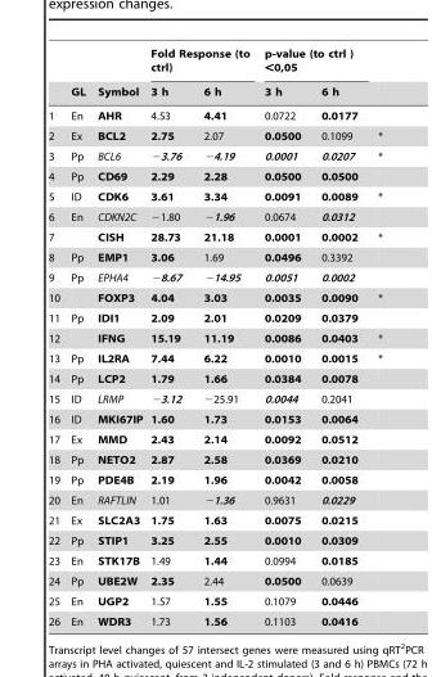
<table><thead><tr><td rowspan="2"></td><td rowspan="2">GL</td><td rowspan="2">Symbol</td><td colspan="2">Fold Response (to ctrl)</td><td colspan="2">p-value (to ctrl ) &lt;0,05</td><td rowspan="2"></td></tr><tr><td>3 h</td><td>6 h</td><td>3 h</td><td>6 h</td></tr></thead><tbody><tr><td>1</td><td>En</td><td>AHR</td><td>4.53</td><td>4.41</td><td>0.0722</td><td>0.0177</td><td></td></tr><tr><td>2</td><td>Ex</td><td>BCL2</td><td>2.75</td><td>2.07</td><td>0.0500</td><td>0.1099</td><td>*</td></tr><tr><td>3</td><td>Pp</td><td>BCL6</td><td>−3.76</td><td>−4.19</td><td>0.0001</td><td>0.0207</td><td>*</td></tr><tr><td>4</td><td>Pp</td><td>CD69</td><td>2.29</td><td>2.28</td><td>0.0500</td><td>0.0500</td><td></td></tr><tr><td>5</td><td>ID</td><td>CDK6</td><td>3.61</td><td>3.34</td><td>0.0091</td><td>0.0089</td><td>*</td></tr><tr><td>6</td><td>En</td><td>CDKN2C</td><td>−1.80</td><td>−1.96</td><td>0.0674</td><td>0.0312</td><td></td></tr><tr><td>7</td><td></td><td>CISH</td><td>28.73</td><td>21.18</td><td>0.0001</td><td>0.0002</td><td>*</td></tr><tr><td>8</td><td>Pp</td><td>EMP1</td><td>3.06</td><td>1.69</td><td>0.0496</td><td>0.3392</td><td></td></tr><tr><td>9</td><td>Pp</td><td>EPHA4</td><td>−8.67</td><td>−14.95</td><td>0.0051</td><td>0.0002</td><td></td></tr><tr><td>10</td><td></td><td>FOXP3</td><td>4.04</td><td>3.03</td><td>0.0035</td><td>0.0090</td><td>*</td></tr><tr><td>11</td><td>Pp</td><td>IDI1</td><td>2.09</td><td>2.01</td><td>0.0209</td><td>0.0379</td><td></td></tr><tr><td>12</td><td></td><td>IFNG</td><td>15.19</td><td>11.19</td><td>0.0086</td><td>0.0403</td><td>*</td></tr><tr><td>13</td><td>Pp</td><td>IL2RA</td><td>7.44</td><td>6.22</td><td>0.0010</td><td>0.0015</td><td>*</td></tr><tr><td>14</td><td>Pp</td><td>LCP2</td><td>1.79</td><td>1.66</td><td>0.0384</td><td>0.0078</td><td></td></tr><tr><td>15</td><td>ID</td><td>LRMP</td><td>−3.12</td><td>−25.91</td><td>0.0044</td><td>0.2041</td><td></td></tr><tr><td>16</td><td>ID</td><td>MKI67IP</td><td>1.60</td><td>1.73</td><td>0.0153</td><td>0.0064</td><td></td></tr><tr><td>17</td><td>Ex</td><td>MMD</td><td>2.43</td><td>2.14</td><td>0.0092</td><td>0.0512</td><td></td></tr><tr><td>18</td><td>Pp</td><td>NETO2</td><td>2.87</td><td>2.58</td><td>0.0369</td><td>0.0210</td><td></td></tr><tr><td>19</td><td>Pp</td><td>PDE4B</td><td>2.19</td><td>1.96</td><td>0.0042</td><td>0.0058</td><td></td></tr><tr><td>20</td><td>En</td><td>RAFTLIN</td><td>1.01</td><td>−1.36</td><td>0.9631</td><td>0.0229</td><td></td></tr><tr><td>21</td><td>Ex</td><td>SLC2A3</td><td>1.75</td><td>1.63</td><td>0.0075</td><td>0.0215</td><td></td></tr><tr><td>22</td><td>Pp</td><td>STIP1</td><td>3.25</td><td>2.55</td><td>0.0010</td><td>0.0309</td><td></td></tr><tr><td>23</td><td>En</td><td>STK17B</td><td>1.49</td><td>1.44</td><td>0.0994</td><td>0.0185</td><td></td></tr><tr><td>24</td><td>Pp</td><td>UBE2W</td><td>2.35</td><td>2.44</td><td>0.0500</td><td>0.0639</td><td></td></tr><tr><td>25</td><td>En</td><td>UGP2</td><td>1.57</td><td>1.55</td><td>0.1079</td><td>0.0446</td><td></td></tr><tr><td>26</td><td>En</td><td>WDR3</td><td>1.73</td><td>1.56</td><td>0.1103</td><td>0.0416</td><td></td></tr></tbody></table>